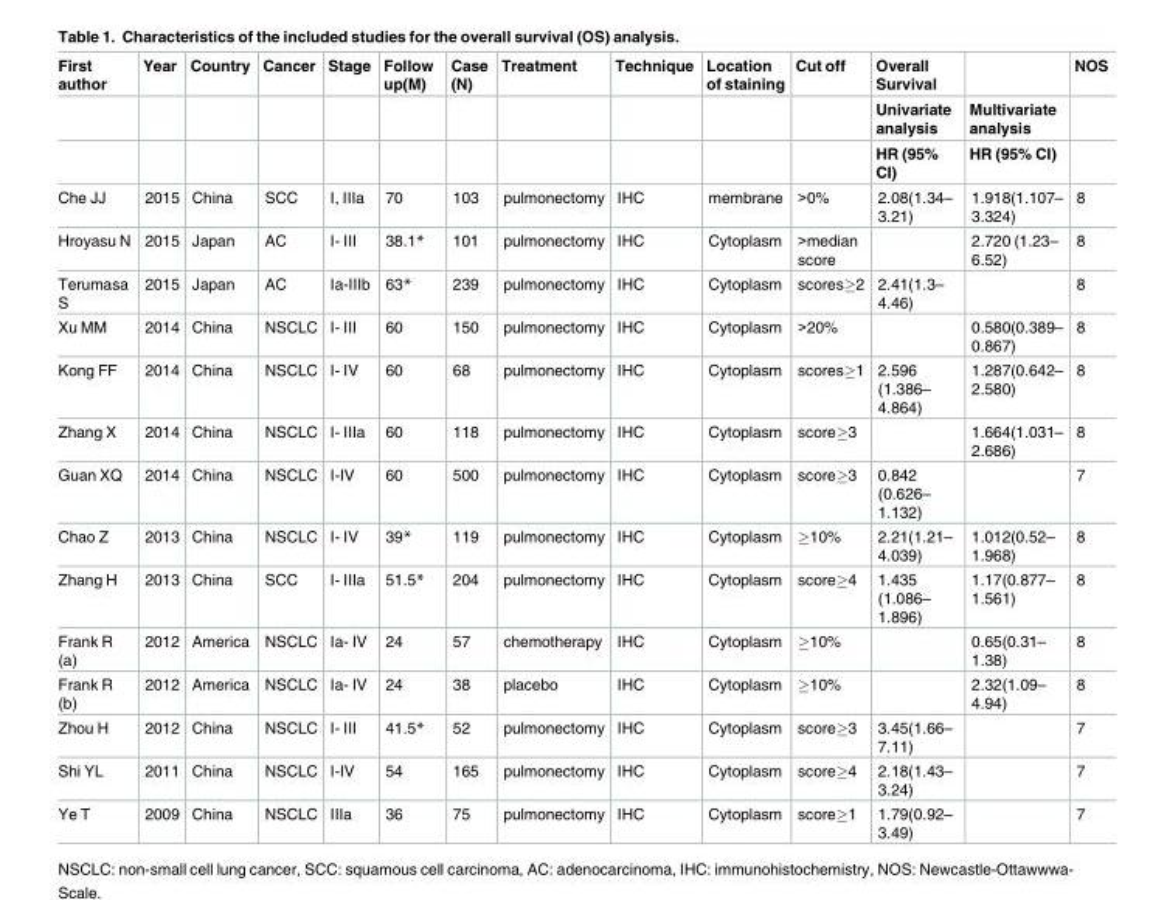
<table><thead><tr><td rowspan="3">First author</td><td rowspan="3">Year</td><td rowspan="3">Country</td><td rowspan="3">Cancer</td><td rowspan="3">Stage</td><td rowspan="3">Follow up(M)</td><td rowspan="3">Case (N)</td><td rowspan="3">Treatment</td><td rowspan="3">Technique</td><td rowspan="3">Location of staining</td><td rowspan="3">Cut off</td><td rowspan="3">Overall Survival Univariate analysis HR (95% CI)</td><td rowspan="3">Multivariate analysis HR (95% CI)</td><td rowspan="3">NOS</td></tr><tr></tr><tr></tr></thead><tbody><tr><td>Che JJ</td><td>2015</td><td>China</td><td>SCC</td><td>I, IIIa</td><td>70</td><td>103</td><td>pulmonectomy</td><td>IHC</td><td>membrane</td><td>&gt;0%</td><td>2.08(1.34– 3.21)</td><td>1.918(1.107– 3.324)</td><td>8</td></tr><tr><td>Hroyasu N</td><td>2015</td><td>Japan</td><td>AC</td><td>I- III</td><td>38.1*</td><td>101</td><td>pulmonectomy</td><td>IHC</td><td>Cytoplasm</td><td>&gt;median score</td><td></td><td>2.720 (1.23– 6.52)</td><td>8</td></tr><tr><td>Terumasa S</td><td>2015</td><td>Japan</td><td>AC</td><td>Ia-IIIb</td><td>63*</td><td>239</td><td>pulmonectomy</td><td>IHC</td><td>Cytoplasm</td><td>scores≥2</td><td>2.41(1.3– 4.46)</td><td></td><td>8</td></tr><tr><td>Xu MM</td><td>2014</td><td>China</td><td>NSCLC</td><td>I- III</td><td>60</td><td>150</td><td>pulmonectomy</td><td>IHC</td><td>Cytoplasm</td><td>&gt;20%</td><td></td><td>0.580(0.389– 0.867)</td><td>8</td></tr><tr><td>Kong FF</td><td>2014</td><td>China</td><td>NSCLC</td><td>I- IV</td><td>60</td><td>68</td><td>pulmonectomy</td><td>IHC</td><td>Cytoplasm</td><td>scores≥1</td><td>2.596 (1.386– 4.864)</td><td>1.287(0.642– 2.580)</td><td>8</td></tr><tr><td>Zhang X</td><td>2014</td><td>China</td><td>NSCLC</td><td>I- IIIa</td><td>60</td><td>118</td><td>pulmonectomy</td><td>IHC</td><td>Cytoplasm</td><td>score≥3</td><td></td><td>1.664(1.031– 2.686)</td><td>8</td></tr><tr><td>Guan XQ</td><td>2014</td><td>China</td><td>NSCLC</td><td>I-IV</td><td>60</td><td>500</td><td>pulmonectomy</td><td>IHC</td><td>Cytoplasm</td><td>score≥3</td><td>0.842 (0.626– 1.132)</td><td></td><td>7</td></tr><tr><td>Chao Z</td><td>2013</td><td>China</td><td>NSCLC</td><td>I- IV</td><td>39*</td><td>119</td><td>pulmonectomy</td><td>IHC</td><td>Cytoplasm</td><td>≥10%</td><td>2.21(1.21– 4.039)</td><td>1.012(0.52– 1.968)</td><td>8</td></tr><tr><td>Zhang H</td><td>2013</td><td>China</td><td>SCC</td><td>I- IIIa</td><td>51.5*</td><td>204</td><td>pulmonectomy</td><td>IHC</td><td>Cytoplasm</td><td>score≥4</td><td>1.435 (1.086– 1.896)</td><td>1.17(0.877– 1.561)</td><td>8</td></tr><tr><td>Frank R (a)</td><td>2012</td><td>America</td><td>NSCLC</td><td>Ia- IV</td><td>24</td><td>57</td><td>chemotherapy</td><td>IHC</td><td>Cytoplasm</td><td>≥10%</td><td></td><td>0.65(0.31– 1.38)</td><td>8</td></tr><tr><td>Frank R (b)</td><td>2012</td><td>America</td><td>NSCLC</td><td>Ia- IV</td><td>24</td><td>38</td><td>placebo</td><td>IHC</td><td>Cytoplasm</td><td>≥10%</td><td></td><td>2.32(1.09– 4.94)</td><td>8</td></tr><tr><td>Zhou H</td><td>2012</td><td>China</td><td>NSCLC</td><td>I- III</td><td>41.5*</td><td>52</td><td>pulmonectomy</td><td>IHC</td><td>Cytoplasm</td><td>score≥3</td><td>3.45(1.66– 7.11)</td><td></td><td>7</td></tr><tr><td>Shi YL</td><td>2011</td><td>China</td><td>NSCLC</td><td>I-IV</td><td>54</td><td>165</td><td>pulmonectomy</td><td>IHC</td><td>Cytoplasm</td><td>score≥4</td><td>2.18(1.43– 3.24)</td><td></td><td>7</td></tr><tr><td>Ye T</td><td>2009</td><td>China</td><td>NSCLC</td><td>IIIa</td><td>36</td><td>75</td><td>pulmonectomy</td><td>IHC</td><td>Cytoplasm</td><td>score≥1</td><td>1.79(0.92– 3.49)</td><td></td><td>7</td></tr></tbody></table>